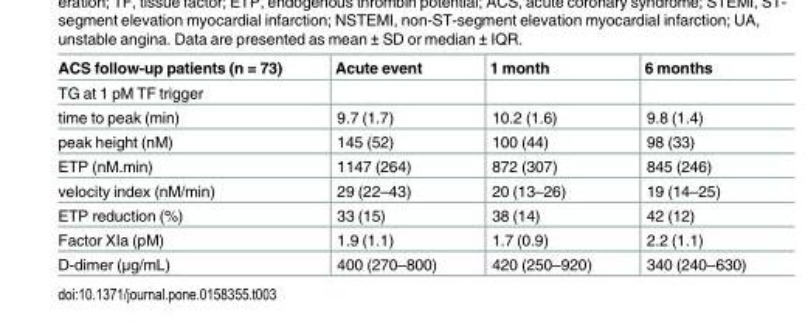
<table><thead><tr><td>ACS follow-up patients (n = 73)</td><td>Acute event</td><td>1 month</td><td>6 months</td></tr></thead><tbody><tr><td colspan="4">TG at 1 pM TF trigger</td></tr><tr><td>time to peak (min)</td><td>9.7 (1.7)</td><td>10.2 (1.6)</td><td>9.8 (1.4)</td></tr><tr><td>peak height (nM)</td><td>145 (52)</td><td>100 (44)</td><td>98 (33)</td></tr><tr><td>ETP (nM.min)</td><td>1147 (264)</td><td>872 (307)</td><td>845 (246)</td></tr><tr><td>velocity index (nM/min)</td><td>29 (22–43)</td><td>20 (13–26)</td><td>19 (14–25)</td></tr><tr><td>ETP reduction (%)</td><td>33 (15)</td><td>38 (14)</td><td>42 (12)</td></tr><tr><td>Factor XIa (pM)</td><td>1.9 (1.1)</td><td>1.7 (0.9)</td><td>2.2 (1.1)</td></tr><tr><td>D-dimer (μg/mL)</td><td>400 (270–800)</td><td>420 (250–920)</td><td>340 (240–630)</td></tr></tbody></table>